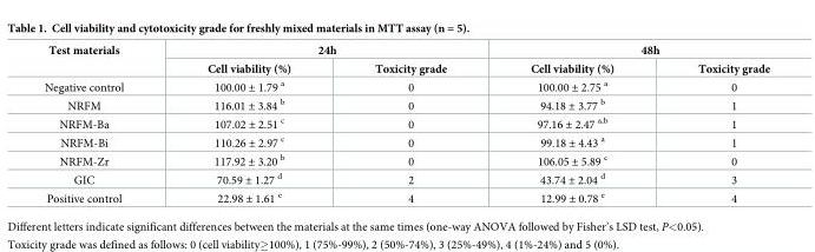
<table><thead><tr><td rowspan="2">Test materials</td><td colspan="2">24h</td><td colspan="2">48h</td></tr><tr><td>Cell viability (%)</td><td>Toxicity grade</td><td>Cell viability (%)</td><td>Toxicity grade</td></tr></thead><tbody><tr><td>Negative control</td><td>100.00 ± 1.79 <sup>a</sup></td><td>0</td><td>100.00 ± 2.75 <sup>a</sup></td><td>0</td></tr><tr><td>NRFM</td><td>116.01 ± 3.84 <sup>b</sup></td><td>0</td><td>94.18 ± 3.77 <sup>b</sup></td><td>1</td></tr><tr><td>NRFM-Ba</td><td>107.02 ± 2.51 <sup>c</sup></td><td>0</td><td>97.16 ± 2.47 <sup>a,b</sup></td><td>1</td></tr><tr><td>NRFM-Bi</td><td>110.26 ± 2.97 <sup>c</sup></td><td>0</td><td>99.18 ± 4.43 <sup>a</sup></td><td>1</td></tr><tr><td>NRFM-Zr</td><td>117.92 ± 3.20 <sup>b</sup></td><td>0</td><td>106.05 ± 5.89 <sup>c</sup></td><td>0</td></tr><tr><td>GIC</td><td>70.59 ± 1.27 <sup>d</sup></td><td>2</td><td>43.74 ± 2.04 <sup>d</sup></td><td>3</td></tr><tr><td>Positive control</td><td>22.98 ± 1.61 <sup>e</sup></td><td>4</td><td>12.99 ± 0.78 <sup>e</sup></td><td>4</td></tr></tbody></table>